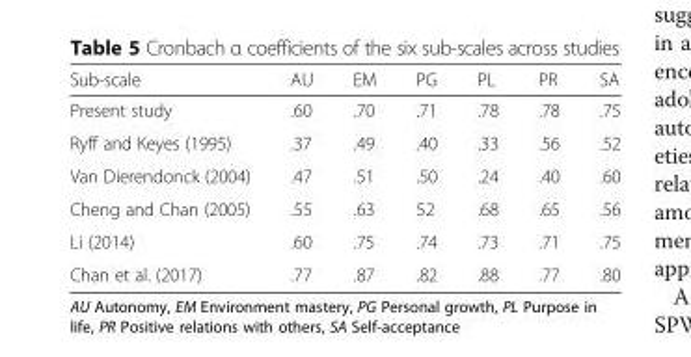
<table><thead><tr><td>Sub-scale</td><td>AU</td><td>EM</td><td>PG</td><td>PL</td><td>PR</td><td>SA</td></tr></thead><tbody><tr><td>Present study</td><td>.60</td><td>.70</td><td>.71</td><td>.78</td><td>.78</td><td>.75</td></tr><tr><td>Ryff and Keyes (1995)</td><td>.37</td><td>.49</td><td>.40</td><td>.33</td><td>.56</td><td>.52</td></tr><tr><td>Van Dierendonck (2004)</td><td>.47</td><td>.51</td><td>.50</td><td>.24</td><td>.40</td><td>.60</td></tr><tr><td>Cheng and Chan (2005)</td><td>.55</td><td>.63</td><td>52</td><td>.68</td><td>.65</td><td>.56</td></tr><tr><td>Li (2014)</td><td>.60</td><td>.75</td><td>.74</td><td>.73</td><td>.71</td><td>.75</td></tr><tr><td>Chan et al. (2017)</td><td>.77</td><td>.87</td><td>.82</td><td>.88</td><td>.77</td><td>.80</td></tr></tbody></table>